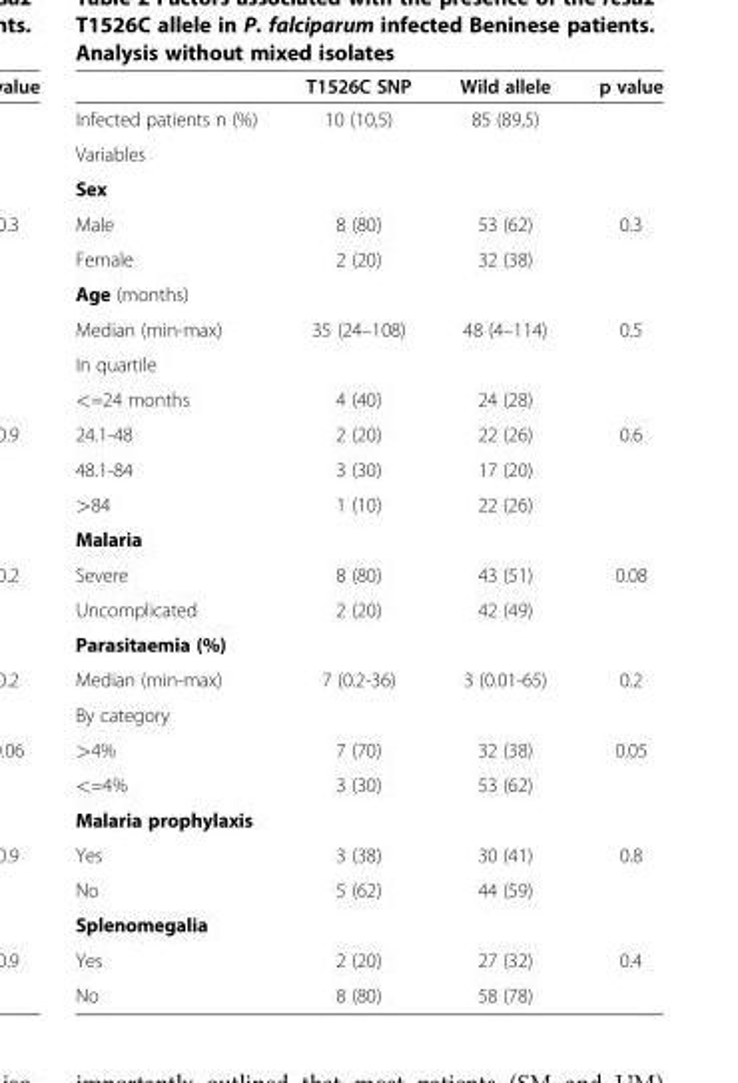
<table><thead><tr><td></td><td>T1526C SNP</td><td>Wild allele</td><td>p value</td></tr></thead><tbody><tr><td>Infected patients n (%)</td><td>10 (10,5)</td><td>85 (89,5)</td><td></td></tr><tr><td colspan="4">Variables</td></tr><tr><td colspan="4">Sex</td></tr><tr><td>Male</td><td>8 (80)</td><td>53 (62)</td><td>0.3</td></tr><tr><td>Female</td><td>2 (20)</td><td>32 (38)</td><td></td></tr><tr><td colspan="4">Age (months)</td></tr><tr><td>Median (min-max)</td><td>35 (24–108)</td><td>48 (4–114)</td><td>0.5</td></tr><tr><td colspan="4">In quartile</td></tr><tr><td>&lt;=24 months</td><td>4 (40)</td><td>24 (28)</td><td></td></tr><tr><td>24.1-48</td><td>2 (20)</td><td>22 (26)</td><td>0.6</td></tr><tr><td>48.1-84</td><td>3 (30)</td><td>17 (20)</td><td></td></tr><tr><td>&gt;84</td><td>1 (10)</td><td>22 (26)</td><td></td></tr><tr><td colspan="4">Malaria</td></tr><tr><td>Severe</td><td>8 (80)</td><td>43 (51)</td><td>0.08</td></tr><tr><td>Uncomplicated</td><td>2 (20)</td><td>42 (49)</td><td></td></tr><tr><td colspan="4">Parasitaemia (%)</td></tr><tr><td>Median (min-max)</td><td>7 (0.2-36)</td><td>3 (0.01-65)</td><td>0.2</td></tr><tr><td colspan="4">By category</td></tr><tr><td>&gt;4%</td><td>7 (70)</td><td>32 (38)</td><td>0.05</td></tr><tr><td>&lt;=4%</td><td>3 (30)</td><td>53 (62)</td><td></td></tr><tr><td colspan="4">Malaria prophylaxis</td></tr><tr><td>Yes</td><td>3 (38)</td><td>30 (41)</td><td>0.8</td></tr><tr><td>No</td><td>5 (62)</td><td>44 (59)</td><td></td></tr><tr><td colspan="4">Splenomegalia</td></tr><tr><td>Yes</td><td>2 (20)</td><td>27 (32)</td><td>0.4</td></tr><tr><td>No</td><td>8 (80)</td><td>58 (78)</td><td></td></tr></tbody></table>